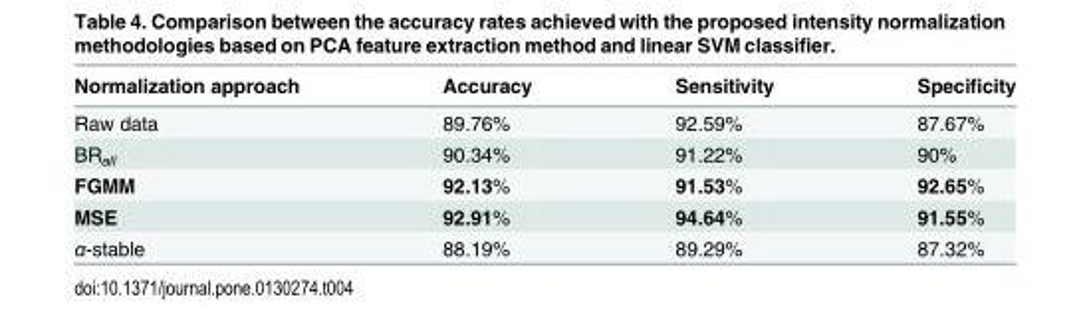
<table><thead><tr><td>Normalization approach</td><td>Accuracy</td><td>Sensitivity</td><td>Specificity</td></tr></thead><tbody><tr><td>Raw data</td><td>89.76%</td><td>92.59%</td><td>87.67%</td></tr><tr><td>BR<sub>all</sub></td><td>90.34%</td><td>91.22%</td><td>90%</td></tr><tr><td>FGMM</td><td>92.13%</td><td>91.53%</td><td>92.65%</td></tr><tr><td>MSE</td><td>92.91%</td><td>94.64%</td><td>91.55%</td></tr><tr><td>α-stable</td><td>88.19%</td><td>89.29%</td><td>87.32%</td></tr></tbody></table>